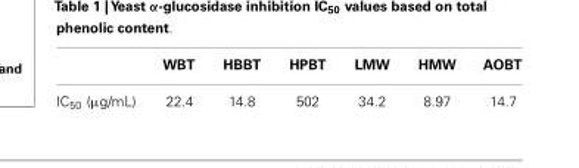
<table><thead><tr><td></td><td>WBT</td><td>HBBT</td><td>HPBT</td><td>LMW</td><td>HMW</td><td>AOBT</td></tr></thead><tbody><tr><td>IC<sub>50</sub> (µg/mL)</td><td>22.4</td><td>14.8</td><td>502</td><td>34.2</td><td>8.97</td><td>14.7</td></tr></tbody></table>